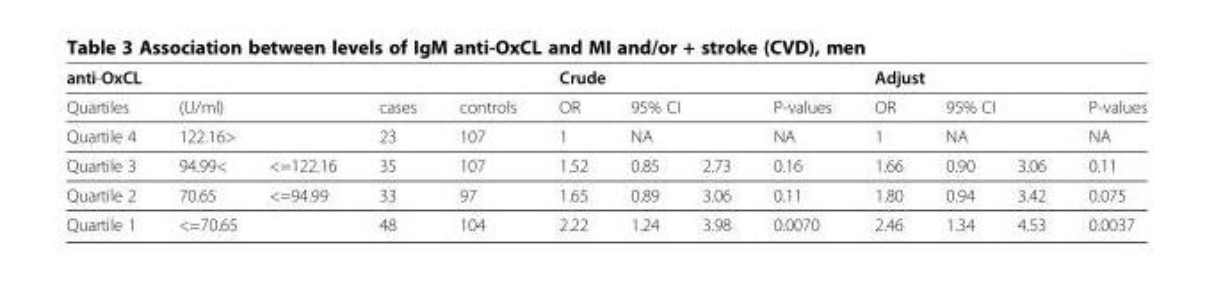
<table><thead><tr><td colspan="3">anti-OxCL</td><td rowspan="4">cases 23 35</td><td rowspan="4">controls 107 107</td><td colspan="4">Crude</td><td colspan="4">Adjust</td></tr><tr><td rowspan="3">Quartiles Quartile 4 Quartile 3</td><td rowspan="2" colspan="2">(U/ml) 122.16&gt;</td><td rowspan="3">OR 1 1.52</td><td rowspan="2" colspan="2">95% CI NA</td><td rowspan="3">P-values NA 0.16</td><td rowspan="3">OR 1 1.66</td><td rowspan="2" colspan="2">95% CI NA</td><td rowspan="3">P-values NA 0.11</td></tr><tr></tr><tr><td>94.99&lt;</td><td>&lt;=122.16</td><td>0.85</td><td>2.73</td><td>0.90</td><td>3.06</td></tr></thead><tbody><tr><td>Quartile 2</td><td>70.65</td><td>&lt;=94.99</td><td>33</td><td>97</td><td>1.65</td><td>0.89</td><td>3.06</td><td>0.11</td><td>1.80</td><td>0.94</td><td>3.42</td><td>0.075</td></tr><tr><td>Quartile 1</td><td colspan="2">&lt;=70.65</td><td>48</td><td>104</td><td>2.22</td><td>1.24</td><td>3.98</td><td>0.0070</td><td>2.46</td><td>1.34</td><td>4.53</td><td>0.0037</td></tr></tbody></table>